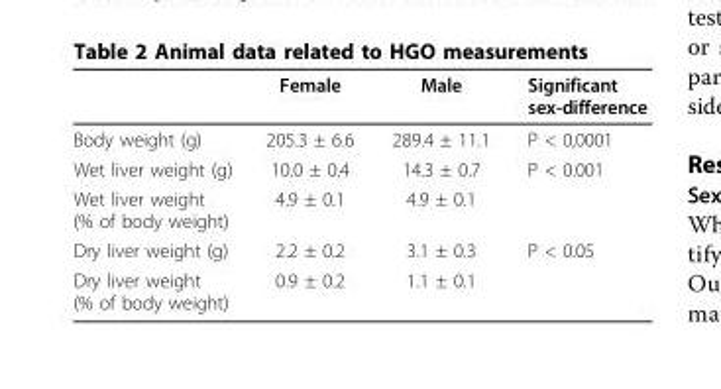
<table><thead><tr><td></td><td>Female</td><td>Male</td><td>Significant sex-difference</td></tr></thead><tbody><tr><td>Body weight (g)</td><td>205.3 ± 6.6</td><td>289.4 ± 11.1</td><td>P &lt; 0,0001</td></tr><tr><td>Wet liver weight (g)</td><td>10.0 ± 0.4</td><td>14.3 ± 0.7</td><td>P &lt; 0.001</td></tr><tr><td>Wet liver weight (% of body weight)</td><td>4.9 ± 0.1</td><td>4.9 ± 0.1</td><td></td></tr><tr><td>Dry liver weight (g)</td><td>2.2 ± 0.2</td><td>3.1 ± 0.3</td><td>P &lt; 0.05</td></tr><tr><td>Dry liver weight (% of body weight)</td><td>0.9 ± 0.2</td><td>1.1 ± 0.1</td><td></td></tr></tbody></table>